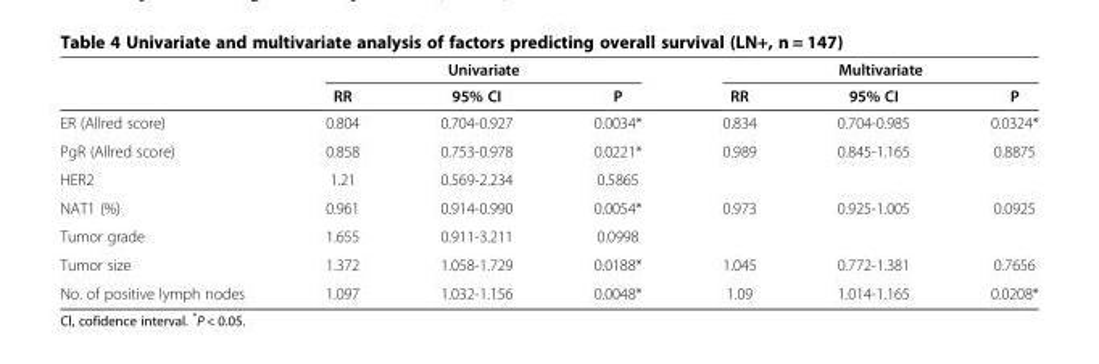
<table><thead><tr><td rowspan="2"></td><td colspan="3">Univariate</td><td colspan="3">Multivariate</td></tr><tr><td>RR</td><td>95% CI</td><td>P</td><td>RR</td><td>95% CI</td><td>P</td></tr></thead><tbody><tr><td>ER (Allred score)</td><td>0.804</td><td>0.704-0.927</td><td>0.0034*</td><td>0.834</td><td>0.704-0.985</td><td>0.0324*</td></tr><tr><td>PgR (Allred score)</td><td>0.858</td><td>0.753-0.978</td><td>0.0221*</td><td>0.989</td><td>0.845-1.165</td><td>0.8875</td></tr><tr><td>HER2</td><td>1.21</td><td>0.569-2.234</td><td>0.5865</td><td></td><td></td><td></td></tr><tr><td>NAT1 (%)</td><td>0.961</td><td>0.914-0.990</td><td>0.0054*</td><td>0.973</td><td>0.925-1.005</td><td>0.0925</td></tr><tr><td>Tumor grade</td><td>1.655</td><td>0.911-3.211</td><td>0.0998</td><td></td><td></td><td></td></tr><tr><td>Tumor size</td><td>1.372</td><td>1.058-1.729</td><td>0.0188*</td><td>1.045</td><td>0.772-1.381</td><td>0.7656</td></tr><tr><td>No. of positive lymph nodes</td><td>1.097</td><td>1.032-1.156</td><td>0.0048*</td><td>1.09</td><td>1.014-1.165</td><td>0.0208*</td></tr></tbody></table>